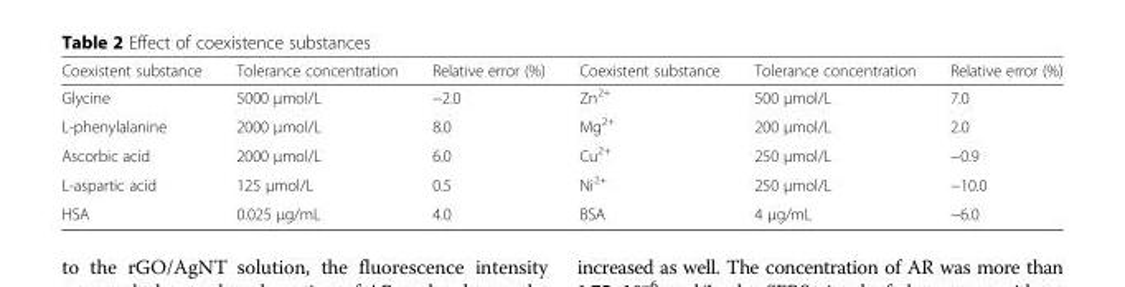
<table><thead><tr><td>Coexistent substance</td><td>Tolerance concentration</td><td>Relative error (%)</td><td>Coexistent substance</td><td>Tolerance concentration</td><td>Relative error (%)</td></tr></thead><tbody><tr><td>Glycine</td><td>5000 μmol/L</td><td>−2.0</td><td>Zn<sup>2+</sup></td><td>500 μmol/L</td><td>7.0</td></tr><tr><td>L-phenylalanine</td><td>2000 μmol/L</td><td>8.0</td><td>Mg<sup>2+</sup></td><td>200 μmol/L</td><td>2.0</td></tr><tr><td>Ascorbic acid</td><td>2000 μmol/L</td><td>6.0</td><td>Cu<sup>2+</sup></td><td>250 μmol/L</td><td>−0.9</td></tr><tr><td>L-aspartic acid</td><td>125 μmol/L</td><td>0.5</td><td>Ni<sup>2+</sup></td><td>250 μmol/L</td><td>−10.0</td></tr><tr><td>HSA</td><td>0.025 μg/mL</td><td>4.0</td><td>BSA</td><td>4 μg/mL</td><td>−6.0</td></tr></tbody></table>